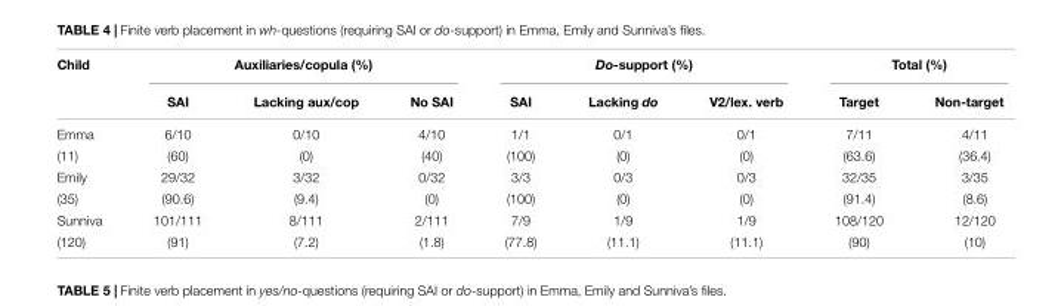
<table><thead><tr><td rowspan="2">Child</td><td colspan="3">Auxiliaries/copula (%)</td><td colspan="3">Do-support (%)</td><td colspan="2">Total (%)</td></tr><tr><td>SAI</td><td>Lacking aux/cop</td><td>No SAI</td><td>SAI</td><td>Lacking do</td><td>V2/lex. verb</td><td>Target</td><td>Non-target</td></tr></thead><tbody><tr><td>Emma</td><td>6/10</td><td>0/10</td><td>4/10</td><td>1/1</td><td>0/1</td><td>0/1</td><td>7/11</td><td>4/11</td></tr><tr><td>(11)</td><td>(60)</td><td>(0)</td><td>(40)</td><td>(100)</td><td>(0)</td><td>(0)</td><td>(63.6)</td><td>(36.4)</td></tr><tr><td>Emily</td><td>29/32</td><td>3/32</td><td>0/32</td><td>3/3</td><td>0/3</td><td>0/3</td><td>32/35</td><td>3/35</td></tr><tr><td>(35)</td><td>(90.6)</td><td>(9.4)</td><td>(0)</td><td>(100)</td><td>(0)</td><td>(0)</td><td>(91.4)</td><td>(8.6)</td></tr><tr><td>Sunniva</td><td>101/111</td><td>8/111</td><td>2/111</td><td>7/9</td><td>1/9</td><td>1/9</td><td>108/120</td><td>12/120</td></tr><tr><td>(120)</td><td>(91)</td><td>(7.2)</td><td>(1.8)</td><td>(77.8)</td><td>(11.1)</td><td>(11.1)</td><td>(90)</td><td>(10)</td></tr></tbody></table>